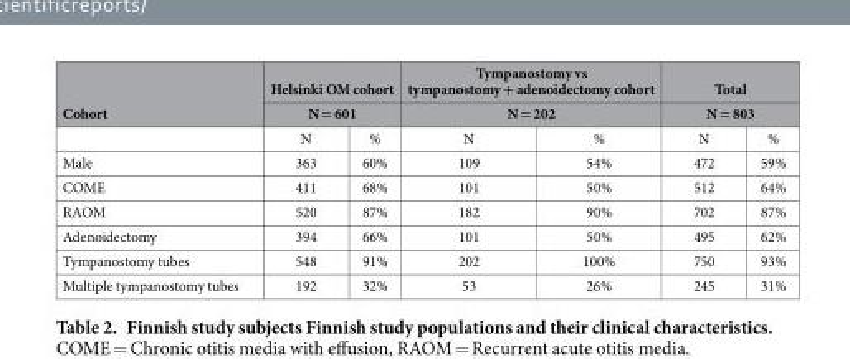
<table><thead><tr><td rowspan="3">Cohort</td><td rowspan="2" colspan="2">Helsinki OM cohort N = 601</td><td rowspan="2" colspan="2">Tympanostomy vs tympanostomy + adenoidectomy cohort N = 202</td><td rowspan="2" colspan="2">Total N = 803</td></tr><tr></tr><tr><td>N</td><td>%</td><td>N</td><td>%</td><td>N</td><td>%</td></tr></thead><tbody><tr><td>Male</td><td>363</td><td>60%</td><td>109</td><td>54%</td><td>472</td><td>59%</td></tr><tr><td>COME</td><td>411</td><td>68%</td><td>101</td><td>50%</td><td>512</td><td>64%</td></tr><tr><td>RAOM</td><td>520</td><td>87%</td><td>182</td><td>90%</td><td>702</td><td>87%</td></tr><tr><td>Adenoidectomy</td><td>394</td><td>66%</td><td>101</td><td>50%</td><td>495</td><td>62%</td></tr><tr><td>Tympanostomy tubes</td><td>548</td><td>91%</td><td>202</td><td>100%</td><td>750</td><td>93%</td></tr><tr><td>Multiple tympanostomy tubes</td><td>192</td><td>32%</td><td>53</td><td>26%</td><td>245</td><td>31%</td></tr></tbody></table>